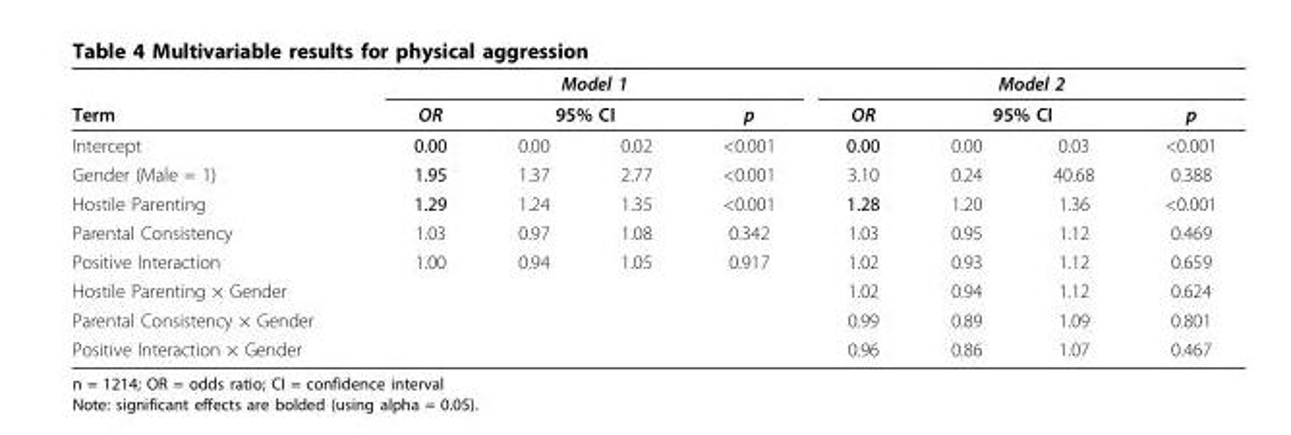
<table><thead><tr><td rowspan="3">Term Intercept</td><td colspan="4">Model 1</td><td colspan="4">Model 2</td></tr><tr><td rowspan="2">OR 0.00</td><td colspan="2">95% CI</td><td rowspan="2">p &lt;0.001</td><td rowspan="2">OR 0.00</td><td colspan="2">95% CI</td><td rowspan="2">p &lt;0.001</td></tr><tr><td>0.00</td><td>0.02</td><td>0.00</td><td>0.03</td></tr></thead><tbody><tr><td>Gender (Male = 1)</td><td>1.95</td><td>1.37</td><td>2.77</td><td>&lt;0.001</td><td>3.10</td><td>0.24</td><td>40.68</td><td>0.388</td></tr><tr><td>Hostile Parenting</td><td>1.29</td><td>1.24</td><td>1.35</td><td>&lt;0.001</td><td>1.28</td><td>1.20</td><td>1.36</td><td>&lt;0.001</td></tr><tr><td>Parental Consistency</td><td>1.03</td><td>0.97</td><td>1.08</td><td>0.342</td><td>1.03</td><td>0.95</td><td>1.12</td><td>0.469</td></tr><tr><td>Positive Interaction</td><td>1.00</td><td>0.94</td><td>1.05</td><td>0.917</td><td>1.02</td><td>0.93</td><td>1.12</td><td>0.659</td></tr><tr><td>Hostile Parenting × Gender</td><td></td><td></td><td></td><td></td><td>1.02</td><td>0.94</td><td>1.12</td><td>0.624</td></tr><tr><td>Parental Consistency × Gender</td><td></td><td></td><td></td><td></td><td>0.99</td><td>0.89</td><td>1.09</td><td>0.801</td></tr><tr><td>Positive Interaction × Gender</td><td></td><td></td><td></td><td></td><td>0.96</td><td>0.86</td><td>1.07</td><td>0.467</td></tr></tbody></table>